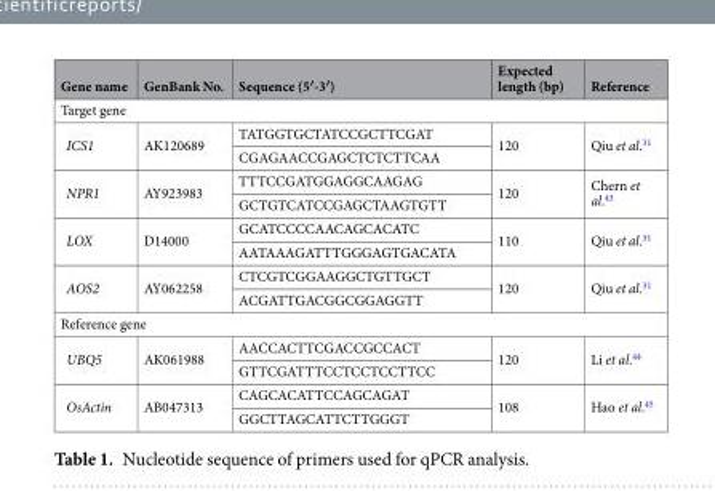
<table><thead><tr><td>Gene name</td><td>GenBank No.</td><td>Sequence (5′-3′)</td><td>Expected length (bp)</td><td>Reference</td></tr></thead><tbody><tr><td colspan="5">Target gene</td></tr><tr><td rowspan="2">ICS1</td><td rowspan="2">AK120689</td><td>TATGGTGCTATCCGCTTCGAT</td><td rowspan="2">120</td><td rowspan="2">Qiu et al.<sup>31</sup></td></tr><tr><td>CGAGAACCGAGCTCTCTTCAA</td></tr><tr><td rowspan="2">NPR1</td><td rowspan="2">AY923983</td><td>TTTCCGATGGAGGCAAGAG</td><td rowspan="2">120</td><td rowspan="2">Chern et al.<sup>43</sup></td></tr><tr><td>GCTGTCATCCGAGCTAAGTGTT</td></tr><tr><td rowspan="2">LOX</td><td rowspan="2">D14000</td><td>GCATCCCCAACAGCACATC</td><td rowspan="2">110</td><td rowspan="2">Qiu et al.<sup>31</sup></td></tr><tr><td>AATAAAGATTTGGGAGTGACATA</td></tr><tr><td rowspan="2">AOS2</td><td rowspan="2">AY062258</td><td>CTCGTCGGAAGGCTGTTGCT</td><td rowspan="2">120</td><td rowspan="2">Qiu et al.<sup>31</sup></td></tr><tr><td>ACGATTGACGGCGGAGGTT</td></tr><tr><td colspan="5">Reference gene</td></tr><tr><td rowspan="2">UBQ5</td><td rowspan="2">AK061988</td><td>AACCACTTCGACCGCCACT</td><td rowspan="2">120</td><td rowspan="2">Li et al.<sup>44</sup></td></tr><tr><td>GTTCGATTTCCTCCTCCTTCC</td></tr><tr><td rowspan="2">OsActin</td><td rowspan="2">AB047313</td><td>CAGCACATTCCAGCAGAT</td><td rowspan="2">108</td><td rowspan="2">Hao et al.<sup>45</sup></td></tr><tr><td>GGCTTAGCATTCTTGGGT</td></tr></tbody></table>